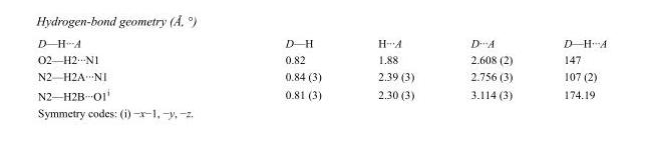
<table><tbody><tr><td>D—H···A</td><td>D—H</td><td>H···A</td><td>D···A</td><td>D—H···A</td></tr><tr><td>O2—H2···N1</td><td>0.82</td><td>1.88</td><td>2.608 (2)</td><td>147</td></tr><tr><td>N2—H2A···N1</td><td>0.84 (3)</td><td>2.39 (3)</td><td>2.756 (3)</td><td>107 (2)</td></tr><tr><td>N2—H2B···O1<sup>i</sup></td><td>0.81 (3)</td><td>2.30 (3)</td><td>3.114 (3)</td><td>174.19</td></tr></tbody></table>